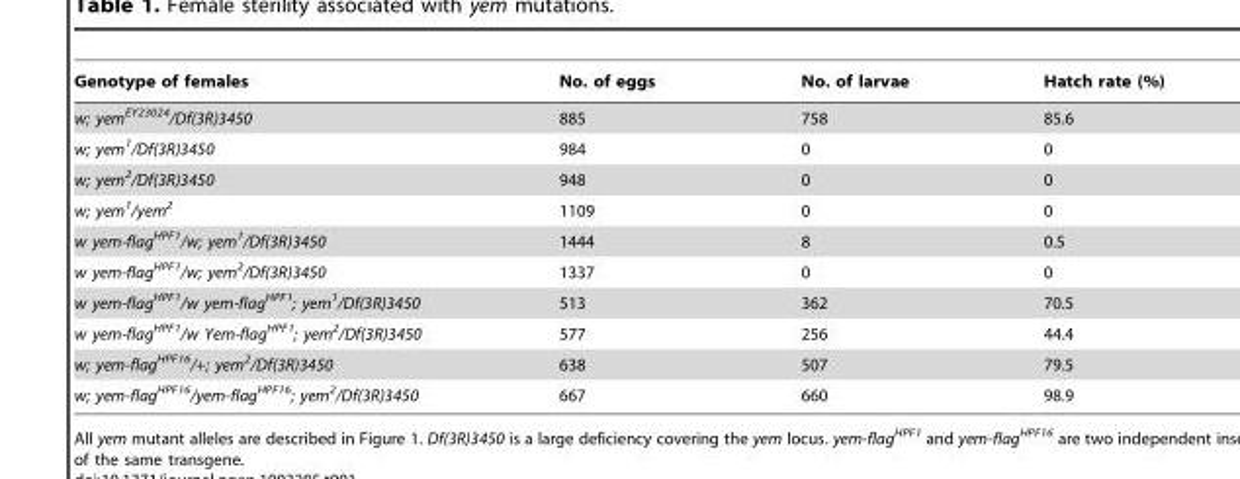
<table><thead><tr><td>Genotype of females</td><td>No. of eggs</td><td>No. of larvae</td><td>Hatch rate (%)</td></tr></thead><tbody><tr><td>w; yem<sup>EY23024</sup>/Df(3R)3450</td><td>885</td><td>758</td><td>85.6</td></tr><tr><td>w; yem<sup>1</sup>/Df(3R)3450</td><td>984</td><td>0</td><td>0</td></tr><tr><td>w; yem<sup>2</sup>/Df(3R)3450</td><td>948</td><td>0</td><td>0</td></tr><tr><td>w; yem<sup>1</sup>/yem<sup>2</sup></td><td>1109</td><td>0</td><td>0</td></tr><tr><td>w yem-flag<sup>HPF1</sup>/w; yem<sup>1</sup>/Df(3R)3450</td><td>1444</td><td>8</td><td>0.5</td></tr><tr><td>w yem-flag<sup>HPF1</sup>/w; yem<sup>2</sup>/Df(3R)3450</td><td>1337</td><td>0</td><td>0</td></tr><tr><td>w yem-flag<sup>HPF1</sup>/w yem-flag<sup>HPF1</sup>; yem<sup>1</sup>/Df(3R)3450</td><td>513</td><td>362</td><td>70.5</td></tr><tr><td>w yem-flag<sup>HPF1</sup>/w Yem-flag<sup>HPF1</sup>; yem<sup>2</sup>/Df(3R)3450</td><td>577</td><td>256</td><td>44.4</td></tr><tr><td>w; yem-flag<sup>HPF16</sup>/+; yem<sup>2</sup>/Df(3R)3450</td><td>638</td><td>507</td><td>79.5</td></tr><tr><td>w; yem-flag<sup>HPF16</sup>/yem-flag<sup>HPF16</sup>; yem<sup>2</sup>/Df(3R)3450</td><td>667</td><td>660</td><td>98.9</td></tr></tbody></table>